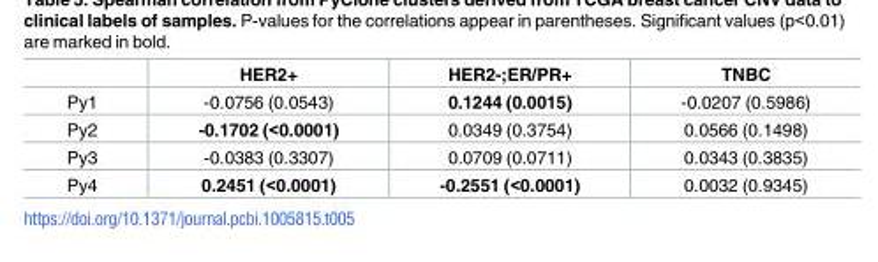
<table><thead><tr><td></td><td>HER2+</td><td>HER2-;ER/PR+</td><td>TNBC</td></tr></thead><tbody><tr><td>Py1</td><td>-0.0756 (0.0543)</td><td>0.1244 (0.0015)</td><td>-0.0207 (0.5986)</td></tr><tr><td>Py2</td><td>-0.1702 (&lt;0.0001)</td><td>0.0349 (0.3754)</td><td>0.0566 (0.1498)</td></tr><tr><td>Py3</td><td>-0.0383 (0.3307)</td><td>0.0709 (0.0711)</td><td>0.0343 (0.3835)</td></tr><tr><td>Py4</td><td>0.2451 (&lt;0.0001)</td><td>-0.2551 (&lt;0.0001)</td><td>0.0032 (0.9345)</td></tr></tbody></table>